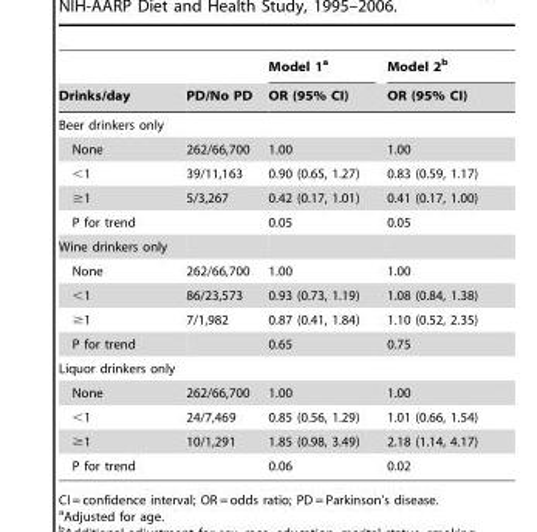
<table><thead><tr><td rowspan="2">Drinks/day</td><td rowspan="2">PD/No PD</td><td rowspan="2">Model 1<sup>a</sup> OR (95% CI)</td><td rowspan="2">Model 2<sup>b</sup> OR (95% CI)</td></tr><tr></tr></thead><tbody><tr><td colspan="4">Beer drinkers only</td></tr><tr><td>None</td><td>262/66,700</td><td>1.00</td><td>1.00</td></tr><tr><td>&lt;1</td><td>39/11,163</td><td>0.90 (0.65, 1.27)</td><td>0.83 (0.59, 1.17)</td></tr><tr><td>≥1</td><td>5/3,267</td><td>0.42 (0.17, 1.01)</td><td>0.41 (0.17, 1.00)</td></tr><tr><td>P for trend</td><td></td><td>0.05</td><td>0.05</td></tr><tr><td colspan="4">Wine drinkers only</td></tr><tr><td>None</td><td>262/66,700</td><td>1.00</td><td>1.00</td></tr><tr><td>&lt;1</td><td>86/23,573</td><td>0.93 (0.73, 1.19)</td><td>1.08 (0.84, 1.38)</td></tr><tr><td>≥1</td><td>7/1,982</td><td>0.87 (0.41, 1.84)</td><td>1.10 (0.52, 2.35)</td></tr><tr><td>P for trend</td><td></td><td>0.65</td><td>0.75</td></tr><tr><td colspan="4">Liquor drinkers only</td></tr><tr><td>None</td><td>262/66,700</td><td>1.00</td><td>1.00</td></tr><tr><td>&lt;1</td><td>24/7,469</td><td>0.85 (0.56, 1.29)</td><td>1.01 (0.66, 1.54)</td></tr><tr><td>≥1</td><td>10/1,291</td><td>1.85 (0.98, 3.49)</td><td>2.18 (1.14, 4.17)</td></tr><tr><td>P for trend</td><td></td><td>0.06</td><td>0.02</td></tr></tbody></table>